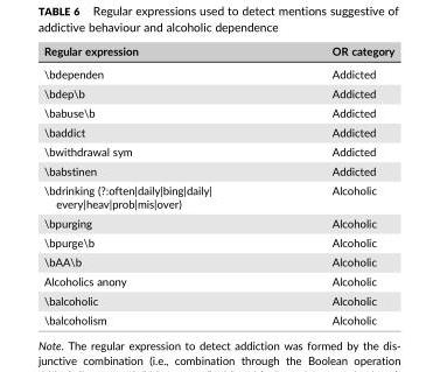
<table><thead><tr><td>Regular expression</td><td>OR category</td></tr></thead><tbody><tr><td>\bdependen</td><td>Addicted</td></tr><tr><td>\bdep\b</td><td>Addicted</td></tr><tr><td>\babuse\b</td><td>Addicted</td></tr><tr><td>\baddict</td><td>Addicted</td></tr><tr><td>\bwithdrawal sym</td><td>Addicted</td></tr><tr><td>\babstinen</td><td>Addicted</td></tr><tr><td>\bdrinking (?:often|daily|bing|daily| every|heav|prob|mis|over)</td><td>Alcoholic</td></tr><tr><td>\bpurging</td><td>Alcoholic</td></tr><tr><td>\bpurge\b</td><td>Alcoholic</td></tr><tr><td>\bAA\b</td><td>Alcoholic</td></tr><tr><td>Alcoholics anony</td><td>Alcoholic</td></tr><tr><td>\balcoholic</td><td>Alcoholic</td></tr><tr><td>\balcoholism</td><td>Alcoholic</td></tr></tbody></table>